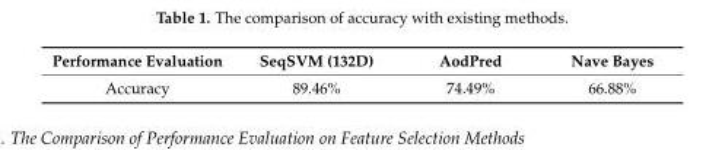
<table><thead><tr><td>Performance Evaluation</td><td>SeqSVM (132D)</td><td>AodPred</td><td>Nave Bayes</td></tr></thead><tbody><tr><td>Accuracy</td><td>89.46%</td><td>74.49%</td><td>66.88%</td></tr></tbody></table>